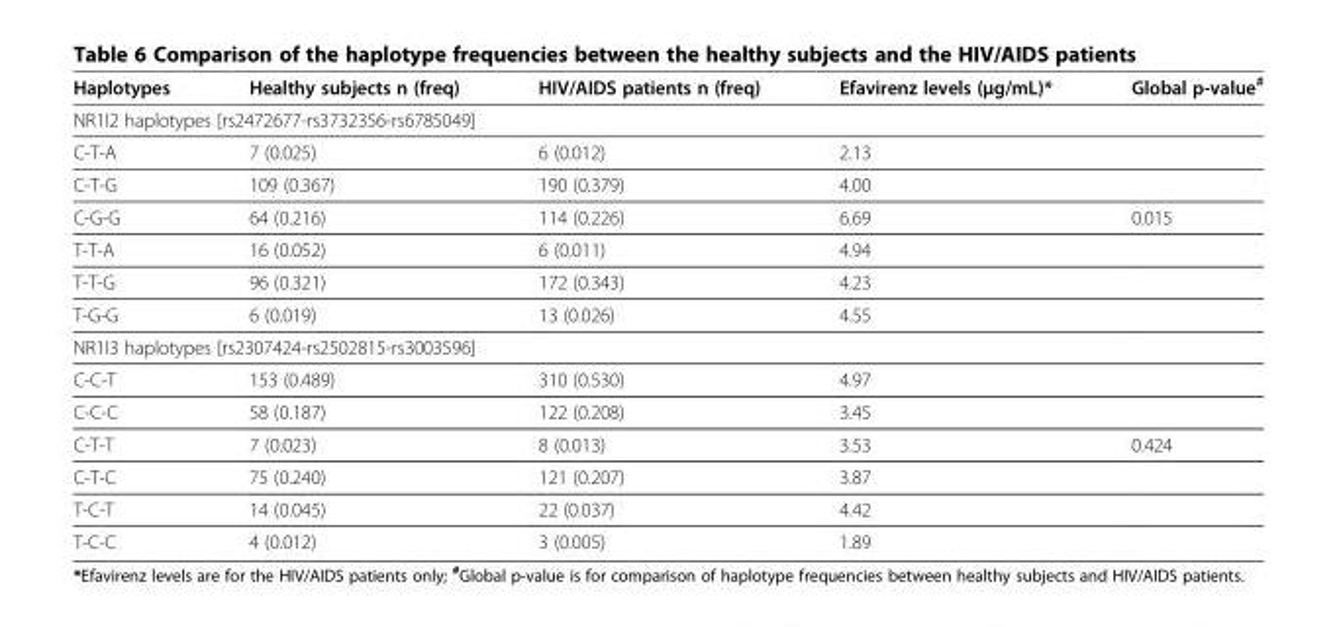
<table><thead><tr><td>Haplotypes</td><td>Healthy subjects n (freq)</td><td>HIV/AIDS patients n (freq)</td><td>Efavirenz levels (μg/mL)*</td><td>Global p-value<sup>#</sup></td></tr></thead><tbody><tr><td colspan="5">NR1I2 haplotypes [rs2472677-rs3732356-rs6785049]</td></tr><tr><td>C-T-A</td><td>7 (0.025)</td><td>6 (0.012)</td><td>2.13</td><td></td></tr><tr><td>C-T-G</td><td>109 (0.367)</td><td>190 (0.379)</td><td>4.00</td><td></td></tr><tr><td>C-G-G</td><td>64 (0.216)</td><td>114 (0.226)</td><td>6.69</td><td>0.015</td></tr><tr><td>T-T-A</td><td>16 (0.052)</td><td>6 (0.011)</td><td>4.94</td><td></td></tr><tr><td>T-T-G</td><td>96 (0.321)</td><td>172 (0.343)</td><td>4.23</td><td></td></tr><tr><td>T-G-G</td><td>6 (0.019)</td><td>13 (0.026)</td><td>4.55</td><td></td></tr><tr><td colspan="5">NR1I3 haplotypes [rs2307424-rs2502815-rs3003596]</td></tr><tr><td>C-C-T</td><td>153 (0.489)</td><td>310 (0.530)</td><td>4.97</td><td></td></tr><tr><td>C-C-C</td><td>58 (0.187)</td><td>122 (0.208)</td><td>3.45</td><td></td></tr><tr><td>C-T-T</td><td>7 (0.023)</td><td>8 (0.013)</td><td>3.53</td><td>0.424</td></tr><tr><td>C-T-C</td><td>75 (0.240)</td><td>121 (0.207)</td><td>3.87</td><td></td></tr><tr><td>T-C-T</td><td>14 (0.045)</td><td>22 (0.037)</td><td>4.42</td><td></td></tr><tr><td>T-C-C</td><td>4 (0.012)</td><td>3 (0.005)</td><td>1.89</td><td></td></tr></tbody></table>